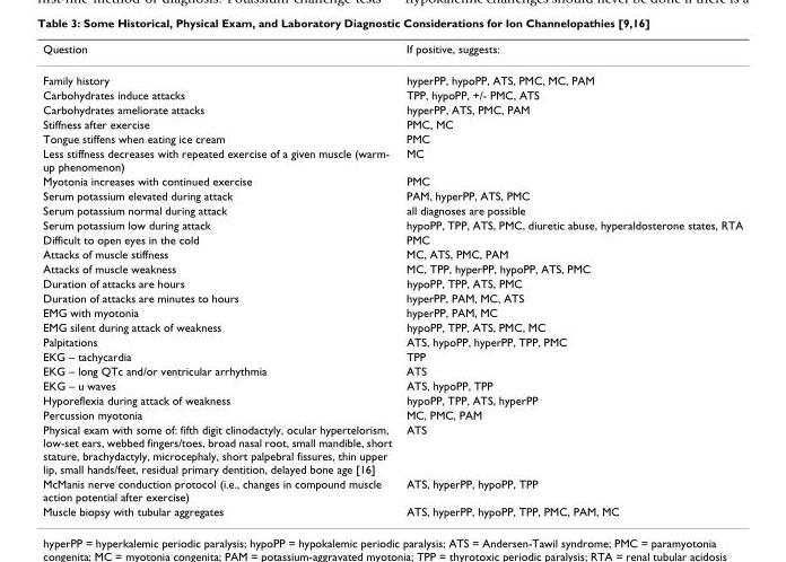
<table><thead><tr><td>Question</td><td>If positive, suggests:</td></tr></thead><tbody><tr><td>Family history</td><td>hyperPP, hypoPP, ATS, PMC, MC, PAM</td></tr><tr><td>Carbohydrates induce attacks</td><td>TPP, hypoPP, +/- PMC, ATS</td></tr><tr><td>Carbohydrates ameliorate attacks</td><td>hyperPP, ATS, PMC, PAM</td></tr><tr><td>Stiffness after exercise</td><td>PMC, MC</td></tr><tr><td>Tongue stiffens when eating ice cream</td><td>PMC</td></tr><tr><td>Less stiffness decreases with repeated exercise of a given muscle (warm- up phenomenon)</td><td>MC</td></tr><tr><td>Myotonia increases with continued exercise</td><td>PMC</td></tr><tr><td>Serum potassium elevated during attack</td><td>PAM, hyperPP, ATS, PMC</td></tr><tr><td>Serum potassium normal during attack</td><td>all diagnoses are possible</td></tr><tr><td>Serum potassium low during attack</td><td>hypoPP, TPP, ATS, PMC, diuretic abuse, hyperaldosterone states, RTA</td></tr><tr><td>Difficult to open eyes in the cold</td><td>PMC</td></tr><tr><td>Attacks of muscle stiffness</td><td>MC, ATS, PMC, PAM</td></tr><tr><td>Attacks of muscle weakness</td><td>MC, TPP, hyperPP, hypoPP, ATS, PMC</td></tr><tr><td>Duration of attacks are hours</td><td>hypoPP, TPP, ATS, PMC</td></tr><tr><td>Duration of attacks are minutes to hours</td><td>hyperPP, PAM, MC, ATS</td></tr><tr><td>EMG with myotonia</td><td>hyperPP, PAM, MC</td></tr><tr><td>EMG silent during attack of weakness</td><td>hypoPP, TPP, ATS, PMC, MC</td></tr><tr><td>Palpitations</td><td>ATS, hypoPP, hyperPP, TPP, PMC</td></tr><tr><td>EKG – tachycardia</td><td>TPP</td></tr><tr><td>EKG – long QTc and/or ventricular arrhythmia</td><td>ATS</td></tr><tr><td>EKG – u waves</td><td>ATS, hypoPP, TPP</td></tr><tr><td>Hyporeflexia during attack of weakness</td><td>hypoPP, TPP, ATS, hyperPP</td></tr><tr><td>Percussion myotonia</td><td>MC, PMC, PAM</td></tr><tr><td>Physical exam with some of: fifth digit clinodactyly, ocular hypertelorism, low-set ears, webbed fingers/toes, broad nasal root, small mandible, short stature, brachydactyly, microcephaly, short palpebral fissures, thin upper lip, small hands/feet, residual primary dentition, delayed bone age [16]</td><td>ATS</td></tr><tr><td>McManis nerve conduction protocol (i.e., changes in compound muscle action potential after exercise)</td><td>ATS, hyperPP, hypoPP, TPP</td></tr><tr><td>Muscle biopsy with tubular aggregates</td><td>ATS, hyperPP, hypoPP, TPP, PMC, PAM, MC</td></tr></tbody></table>